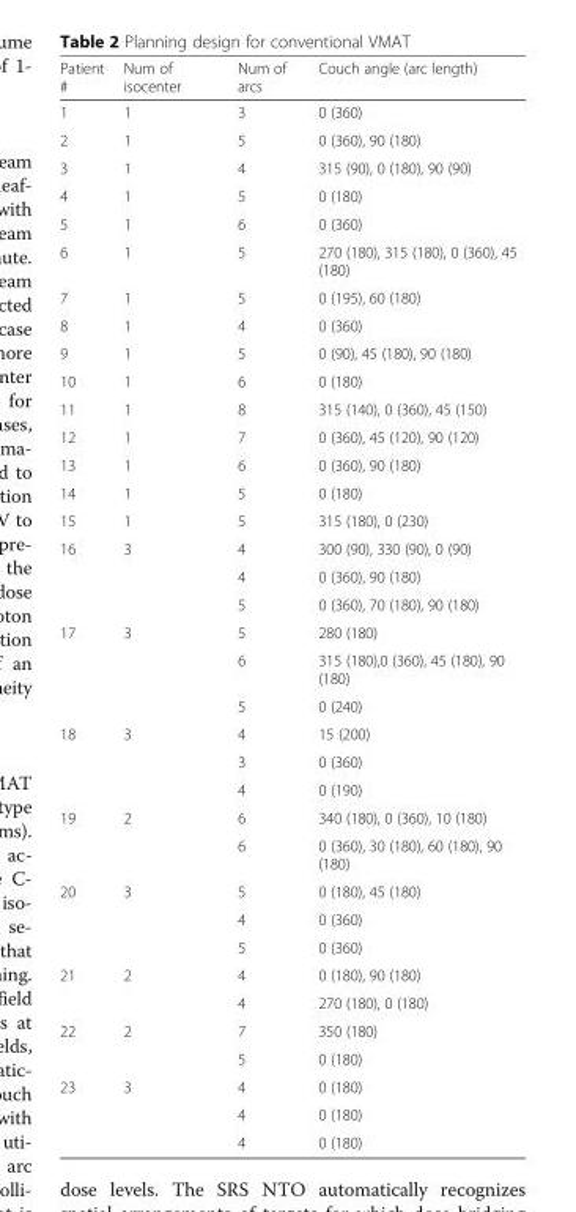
<table><thead><tr><td>Patient #</td><td>Num of isocenter</td><td>Num of arcs</td><td>Couch angle (arc length)</td></tr></thead><tbody><tr><td>1</td><td>1</td><td>3</td><td>0 (360)</td></tr><tr><td>2</td><td>1</td><td>5</td><td>0 (360), 90 (180)</td></tr><tr><td>3</td><td>1</td><td>4</td><td>315 (90), 0 (180), 90 (90)</td></tr><tr><td>4</td><td>1</td><td>5</td><td>0 (180)</td></tr><tr><td>5</td><td>1</td><td>6</td><td>0 (360)</td></tr><tr><td>6</td><td>1</td><td>5</td><td>270 (180), 315 (180), 0 (360), 45 (180)</td></tr><tr><td>7</td><td>1</td><td>5</td><td>0 (195), 60 (180)</td></tr><tr><td>8</td><td>1</td><td>4</td><td>0 (360)</td></tr><tr><td>9</td><td>1</td><td>5</td><td>0 (90), 45 (180), 90 (180)</td></tr><tr><td>10</td><td>1</td><td>6</td><td>0 (180)</td></tr><tr><td>11</td><td>1</td><td>8</td><td>315 (140), 0 (360), 45 (150)</td></tr><tr><td>12</td><td>1</td><td>7</td><td>0 (360), 45 (120), 90 (120)</td></tr><tr><td>13</td><td>1</td><td>6</td><td>0 (360), 90 (180)</td></tr><tr><td>14</td><td>1</td><td>5</td><td>0 (180)</td></tr><tr><td>15</td><td>1</td><td>5</td><td>315 (180), 0 (230)</td></tr><tr><td rowspan="3">16</td><td>3</td><td>4</td><td>300 (90), 330 (90), 0 (90)</td></tr><tr><td></td><td>4</td><td>0 (360), 90 (180)</td></tr><tr><td></td><td>5</td><td>0 (360), 70 (180), 90 (180)</td></tr><tr><td rowspan="3">17</td><td>3</td><td>5</td><td>280 (180)</td></tr><tr><td></td><td>6</td><td>315 (180),0 (360), 45 (180), 90 (180)</td></tr><tr><td></td><td>5</td><td>0 (240)</td></tr><tr><td rowspan="3">18</td><td>3</td><td>4</td><td>15 (200)</td></tr><tr><td></td><td>3</td><td>0 (360)</td></tr><tr><td></td><td>4</td><td>0 (190)</td></tr><tr><td rowspan="2">19</td><td>2</td><td>6</td><td>340 (180), 0 (360), 10 (180)</td></tr><tr><td></td><td>6</td><td>0 (360), 30 (180), 60 (180), 90 (180)</td></tr><tr><td rowspan="3">20</td><td>3</td><td>5</td><td>0 (180), 45 (180)</td></tr><tr><td></td><td>4</td><td>0 (360)</td></tr><tr><td></td><td>5</td><td>0 (360)</td></tr><tr><td rowspan="2">21</td><td>2</td><td>4</td><td>0 (180), 90 (180)</td></tr><tr><td></td><td>4</td><td>270 (180), 0 (180)</td></tr><tr><td rowspan="2">22</td><td>2</td><td>7</td><td>350 (180)</td></tr><tr><td></td><td>5</td><td>0 (180)</td></tr><tr><td rowspan="3">23</td><td>3</td><td>4</td><td>0 (180)</td></tr><tr><td></td><td>4</td><td>0 (180)</td></tr><tr><td></td><td>4</td><td>0 (180)</td></tr></tbody></table>